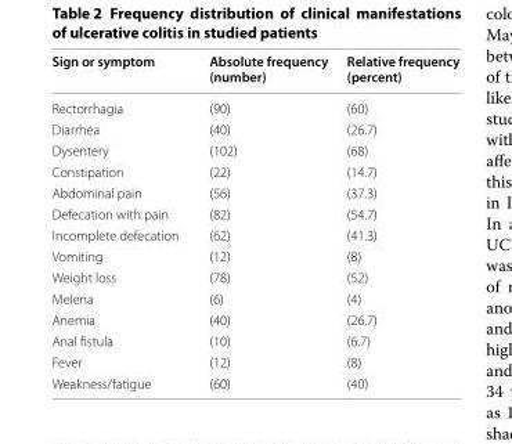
<table><thead><tr><td>Sign or symptom</td><td>Absolute frequency (number)</td><td>Relative frequency (percent)</td></tr></thead><tbody><tr><td>Rectorrhagia</td><td>(90)</td><td>(60)</td></tr><tr><td>Diarrhea</td><td>(40)</td><td>(26.7)</td></tr><tr><td>Dysentery</td><td>(102)</td><td>(68)</td></tr><tr><td>Constipation</td><td>(22)</td><td>(14.7)</td></tr><tr><td>Abdominal pain</td><td>(56)</td><td>(37.3)</td></tr><tr><td>Defecation with pain</td><td>(82)</td><td>(54.7)</td></tr><tr><td>Incomplete defecation</td><td>(62)</td><td>(41.3)</td></tr><tr><td>Vomiting</td><td>(12)</td><td>(8)</td></tr><tr><td>Weight loss</td><td>(78)</td><td>(52)</td></tr><tr><td>Melena</td><td>(6)</td><td>(4)</td></tr><tr><td>Anemia</td><td>(40)</td><td>(26.7)</td></tr><tr><td>Anal fistula</td><td>(10)</td><td>(6.7)</td></tr><tr><td>Fever</td><td>(12)</td><td>(8)</td></tr><tr><td>Weakness/fatigue</td><td>(60)</td><td>(40)</td></tr></tbody></table>